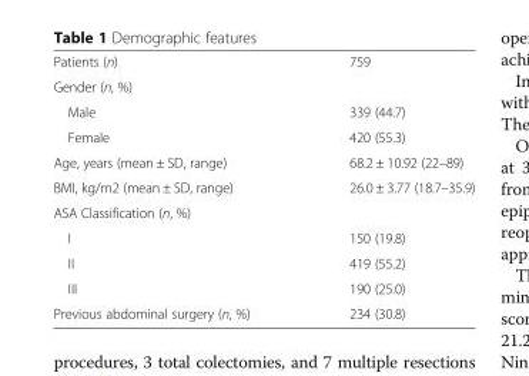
<table><tbody><tr><td>Patients (n)</td><td>759</td></tr><tr><td colspan="2">Gender (n, %)</td></tr><tr><td>Male</td><td>339 (44.7)</td></tr><tr><td>Female</td><td>420 (55.3)</td></tr><tr><td>Age, years (mean ± SD, range)</td><td>68.2 ± 10.92 (22–89)</td></tr><tr><td>BMI, kg/m2 (mean ± SD, range)</td><td>26.0 ± 3.77 (18.7–35.9)</td></tr><tr><td colspan="2">ASA Classification (n, %)</td></tr><tr><td>I</td><td>150 (19.8)</td></tr><tr><td>II</td><td>419 (55.2)</td></tr><tr><td>III</td><td>190 (25.0)</td></tr><tr><td>Previous abdominal surgery (n, %)</td><td>234 (30.8)</td></tr></tbody></table>